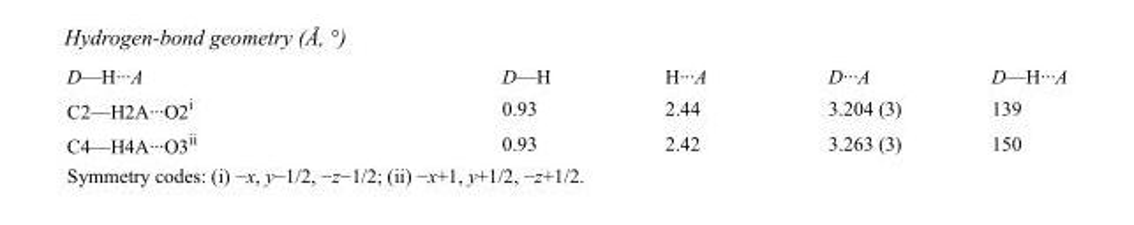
<table><tbody><tr><td>D—H···A</td><td>D—H</td><td>H···A</td><td>D···A</td><td>D—H···A</td></tr><tr><td>C2—H2A···O2<sup>i</sup></td><td>0.93</td><td>2.44</td><td>3.204 (3)</td><td>139</td></tr><tr><td>C4—H4A···O3<sup>ii</sup></td><td>0.93</td><td>2.42</td><td>3.263 (3)</td><td>150</td></tr></tbody></table>